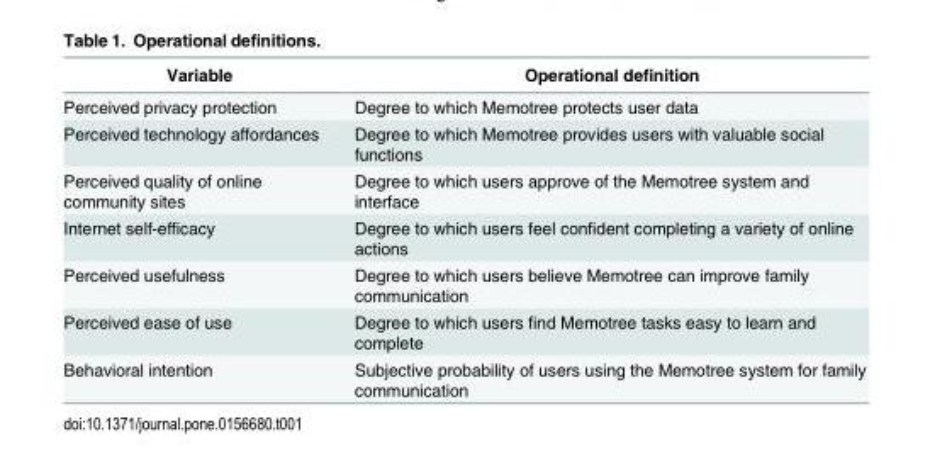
<table><thead><tr><td>Variable</td><td>Operational definition</td></tr></thead><tbody><tr><td>Perceived privacy protection</td><td>Degree to which Memotree protects user data</td></tr><tr><td>Perceived technology affordances</td><td>Degree to which Memotree provides users with valuable social functions</td></tr><tr><td>Perceived quality of online community sites</td><td>Degree to which users approve of the Memotree system and interface</td></tr><tr><td>Internet self-efficacy</td><td>Degree to which users feel confident completing a variety of online actions</td></tr><tr><td>Perceived usefulness</td><td>Degree to which users believe Memotree can improve family communication</td></tr><tr><td>Perceived ease of use</td><td>Degree to which users find Memotree tasks easy to learn and complete</td></tr><tr><td>Behavioral intention</td><td>Subjective probability of users using the Memotree system for family communication</td></tr></tbody></table>